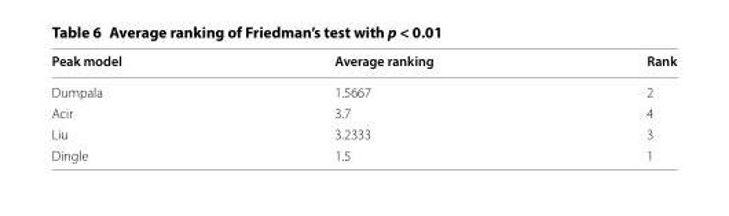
<table><thead><tr><td>Peak model</td><td>Average ranking</td><td>Rank</td></tr></thead><tbody><tr><td>Dumpala</td><td>1.5667</td><td>2</td></tr><tr><td>Acir</td><td>3.7</td><td>4</td></tr><tr><td>Liu</td><td>3.2333</td><td>3</td></tr><tr><td>Dingle</td><td>1.5</td><td>1</td></tr></tbody></table>